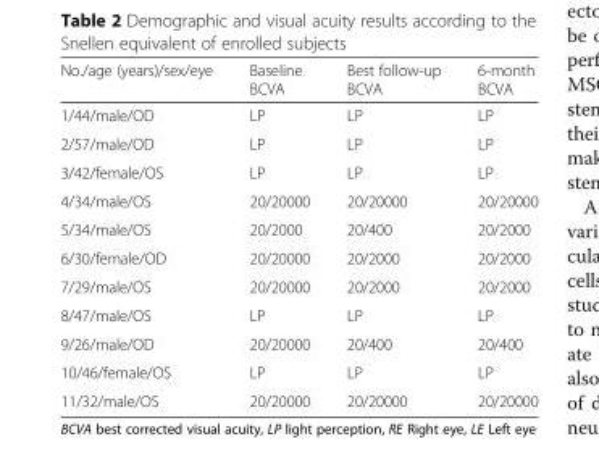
<table><thead><tr><td>No./age (years)/sex/eye</td><td>Baseline BCVA</td><td>Best follow-up BCVA</td><td>6-month BCVA</td></tr></thead><tbody><tr><td>1/44/male/OD</td><td>LP</td><td>LP</td><td>LP</td></tr><tr><td>2/57/male/OD</td><td>LP</td><td>LP</td><td>LP</td></tr><tr><td>3/42/female/OS</td><td>LP</td><td>LP</td><td>LP</td></tr><tr><td>4/34/male/OS</td><td>20/20000</td><td>20/20000</td><td>20/20000</td></tr><tr><td>5/34/male/OS</td><td>20/2000</td><td>20/400</td><td>20/2000</td></tr><tr><td>6/30/female/OD</td><td>20/20000</td><td>20/2000</td><td>20/2000</td></tr><tr><td>7/29/male/OS</td><td>20/20000</td><td>20/2000</td><td>20/2000</td></tr><tr><td>8/47/male/OS</td><td>LP</td><td>LP</td><td>LP</td></tr><tr><td>9/26/male/OD</td><td>20/20000</td><td>20/400</td><td>20/400</td></tr><tr><td>10/46/female/OS</td><td>LP</td><td>LP</td><td>LP</td></tr><tr><td>11/32/male/OS</td><td>20/20000</td><td>20/20000</td><td>20/20000</td></tr></tbody></table>